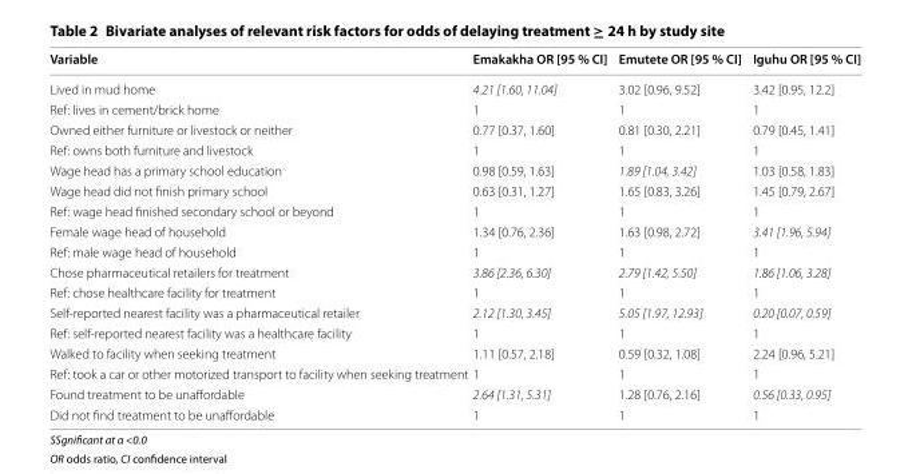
<table><thead><tr><td>Variable</td><td>Emakakha OR [95 % CI]</td><td>Emutete OR [95 % CI]</td><td>Iguhu OR [95 % CI]</td></tr></thead><tbody><tr><td>Lived in mud home</td><td>4.21 [1.60, 11.04]</td><td>3.02 [0.96, 9.52]</td><td>3.42 [0.95, 12.2]</td></tr><tr><td>Ref: lives in cement/brick home</td><td>1</td><td>1</td><td>1</td></tr><tr><td>Owned either furniture or livestock or neither</td><td>0.77 [0.37, 1.60]</td><td>0.81 [0.30, 2.21]</td><td>0.79 [0.45, 1.41]</td></tr><tr><td>Ref: owns both furniture and livestock</td><td>1</td><td>1</td><td>1</td></tr><tr><td>Wage head has a primary school education</td><td>0.98 [0.59, 1.63]</td><td>1.89 [1.04, 3.42]</td><td>1.03 [0.58, 1.83]</td></tr><tr><td>Wage head did not finish primary school</td><td>0.63 [0.31, 1.27]</td><td>1.65 [0.83, 3.26]</td><td>1.45 [0.79, 2.67]</td></tr><tr><td>Ref: wage head finished secondary school or beyond</td><td>1</td><td>1</td><td>1</td></tr><tr><td>Female wage head of household</td><td>1.34 [0.76, 2.36]</td><td>1.63 [0.98, 2.72]</td><td>3.41 [1.96, 5.94]</td></tr><tr><td>Ref: male wage head of household</td><td>1</td><td>1</td><td>1</td></tr><tr><td>Chose pharmaceutical retailers for treatment</td><td>3.86 [2.36, 6.30]</td><td>2.79 [1.42, 5.50]</td><td>1.86 [1.06, 3.28]</td></tr><tr><td>Ref: chose healthcare facility for treatment</td><td>1</td><td>1</td><td>1</td></tr><tr><td>Self‑reported nearest facility was a pharmaceutical retailer</td><td>2.12 [1.30, 3.45]</td><td>5.05 [1.97, 12.93]</td><td>0.20 [0.07, 0.59]</td></tr><tr><td>Ref: self‑reported nearest facility was a healthcare facility</td><td>1</td><td>1</td><td>1</td></tr><tr><td>Walked to facility when seeking treatment</td><td>1.11 [0.57, 2.18]</td><td>0.59 [0.32, 1.08]</td><td>2.24 [0.96, 5.21]</td></tr><tr><td>Ref: took a car or other motorized transport to facility when seeking treatment</td><td>1</td><td>1</td><td>1</td></tr><tr><td>Found treatment to be unaffordable</td><td>2.64 [1.31, 5.31]</td><td>1.28 [0.76, 2.16]</td><td>0.56 [0.33, 0.95]</td></tr><tr><td>Did not find treatment to be unaffordable</td><td>1</td><td>1</td><td>1</td></tr></tbody></table>